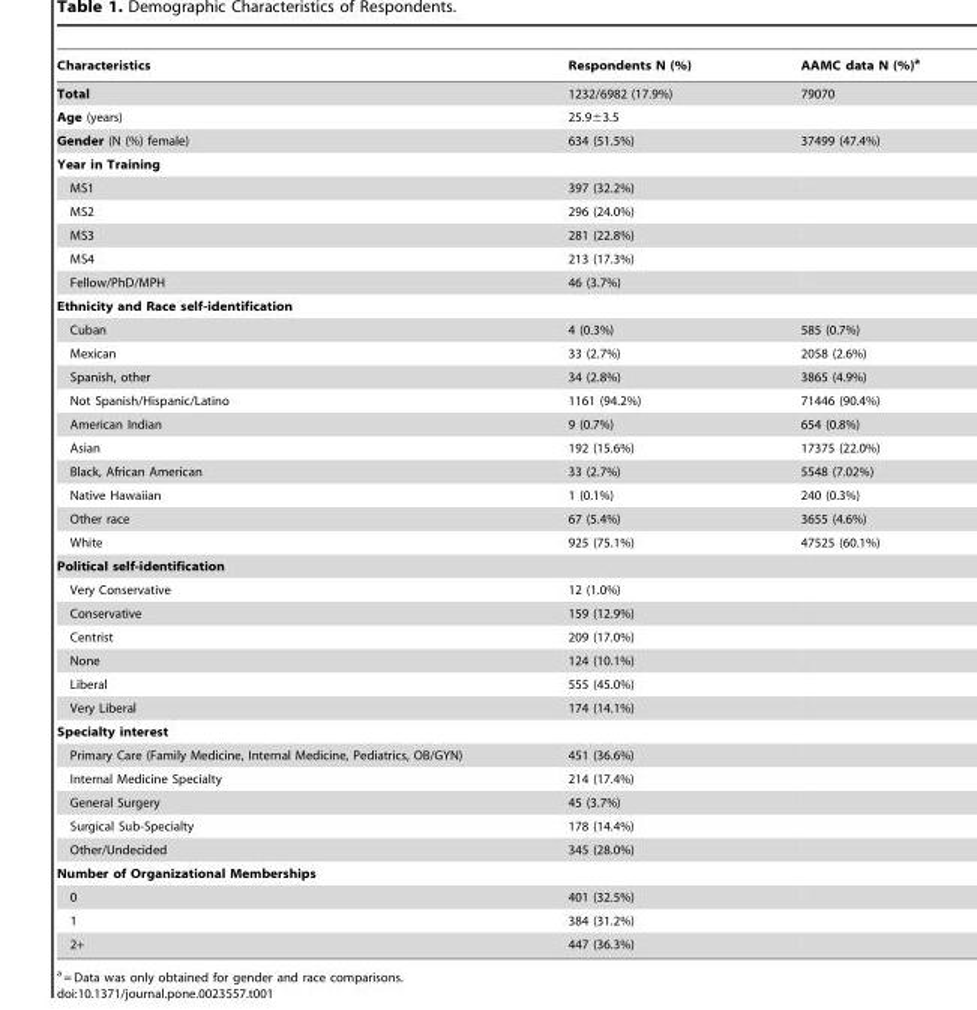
<table><thead><tr><td>Characteristics</td><td>Respondents N (%)</td><td>AAMC data N (%)<sup>a</sup></td></tr></thead><tbody><tr><td>Total</td><td>1232/6982 (17.9%)</td><td>79070</td></tr><tr><td>Age (years)</td><td>25.9±3.5</td><td></td></tr><tr><td>Gender (N (%) female)</td><td>634 (51.5%)</td><td>37499 (47.4%)</td></tr><tr><td colspan="3">Year in Training</td></tr><tr><td>MS1</td><td>397 (32.2%)</td><td></td></tr><tr><td>MS2</td><td>296 (24.0%)</td><td></td></tr><tr><td>MS3</td><td>281 (22.8%)</td><td></td></tr><tr><td>MS4</td><td>213 (17.3%)</td><td></td></tr><tr><td>Fellow/PhD/MPH</td><td>46 (3.7%)</td><td></td></tr><tr><td colspan="3">Ethnicity and Race self-identification</td></tr><tr><td>Cuban</td><td>4 (0.3%)</td><td>585 (0.7%)</td></tr><tr><td>Mexican</td><td>33 (2.7%)</td><td>2058 (2.6%)</td></tr><tr><td>Spanish, other</td><td>34 (2.8%)</td><td>3865 (4.9%)</td></tr><tr><td>Not Spanish/Hispanic/Latino</td><td>1161 (94.2%)</td><td>71446 (90.4%)</td></tr><tr><td>American Indian</td><td>9 (0.7%)</td><td>654 (0.8%)</td></tr><tr><td>Asian</td><td>192 (15.6%)</td><td>17375 (22.0%)</td></tr><tr><td>Black, African American</td><td>33 (2.7%)</td><td>5548 (7.02%)</td></tr><tr><td>Native Hawaiian</td><td>1 (0.1%)</td><td>240 (0.3%)</td></tr><tr><td>Other race</td><td>67 (5.4%)</td><td>3655 (4.6%)</td></tr><tr><td>White</td><td>925 (75.1%)</td><td>47525 (60.1%)</td></tr><tr><td colspan="3">Political self-identification</td></tr><tr><td>Very Conservative</td><td>12 (1.0%)</td><td></td></tr><tr><td>Conservative</td><td>159 (12.9%)</td><td></td></tr><tr><td>Centrist</td><td>209 (17.0%)</td><td></td></tr><tr><td>None</td><td>124 (10.1%)</td><td></td></tr><tr><td>Liberal</td><td>555 (45.0%)</td><td></td></tr><tr><td>Very Liberal</td><td>174 (14.1%)</td><td></td></tr><tr><td colspan="3">Specialty interest</td></tr><tr><td>Primary Care (Family Medicine, Internal Medicine, Pediatrics, OB/GYN)</td><td>451 (36.6%)</td><td></td></tr><tr><td>Internal Medicine Specialty</td><td>214 (17.4%)</td><td></td></tr><tr><td>General Surgery</td><td>45 (3.7%)</td><td></td></tr><tr><td>Surgical Sub-Specialty</td><td>178 (14.4%)</td><td></td></tr><tr><td>Other/Undecided</td><td>345 (28.0%)</td><td></td></tr><tr><td colspan="3">Number of Organizational Memberships</td></tr><tr><td>0</td><td>401 (32.5%)</td><td></td></tr><tr><td>1</td><td>384 (31.2%)</td><td></td></tr><tr><td>2+</td><td>447 (36.3%)</td><td></td></tr></tbody></table>